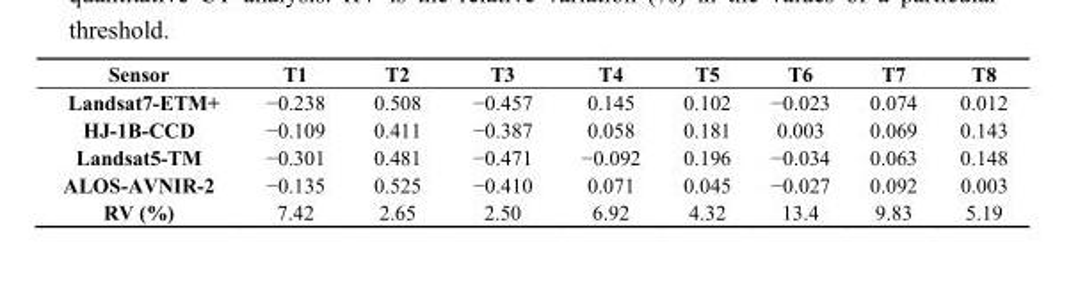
<table><thead><tr><td>Sensor</td><td>T1</td><td>T2</td><td>T3</td><td>T4</td><td>T5</td><td>T6</td><td>T7</td><td>T8</td></tr></thead><tbody><tr><td>Landsat7-ETM+</td><td>−0.238</td><td>0.508</td><td>−0.457</td><td>0.145</td><td>0.102</td><td>−0.023</td><td>0.074</td><td>0.012</td></tr><tr><td>HJ-1B-CCD</td><td>−0.109</td><td>0.411</td><td>−0.387</td><td>0.058</td><td>0.181</td><td>0.003</td><td>0.069</td><td>0.143</td></tr><tr><td>Landsat5-TM</td><td>−0.301</td><td>0.481</td><td>−0.471</td><td>−0.092</td><td>0.196</td><td>−0.034</td><td>0.063</td><td>0.148</td></tr><tr><td>ALOS-AVNIR-2</td><td>−0.135</td><td>0.525</td><td>−0.410</td><td>0.071</td><td>0.045</td><td>−0.027</td><td>0.092</td><td>0.003</td></tr><tr><td>RV (%)</td><td>7.42</td><td>2.65</td><td>2.50</td><td>6.92</td><td>4.32</td><td>13.4</td><td>9.83</td><td>5.19</td></tr></tbody></table>